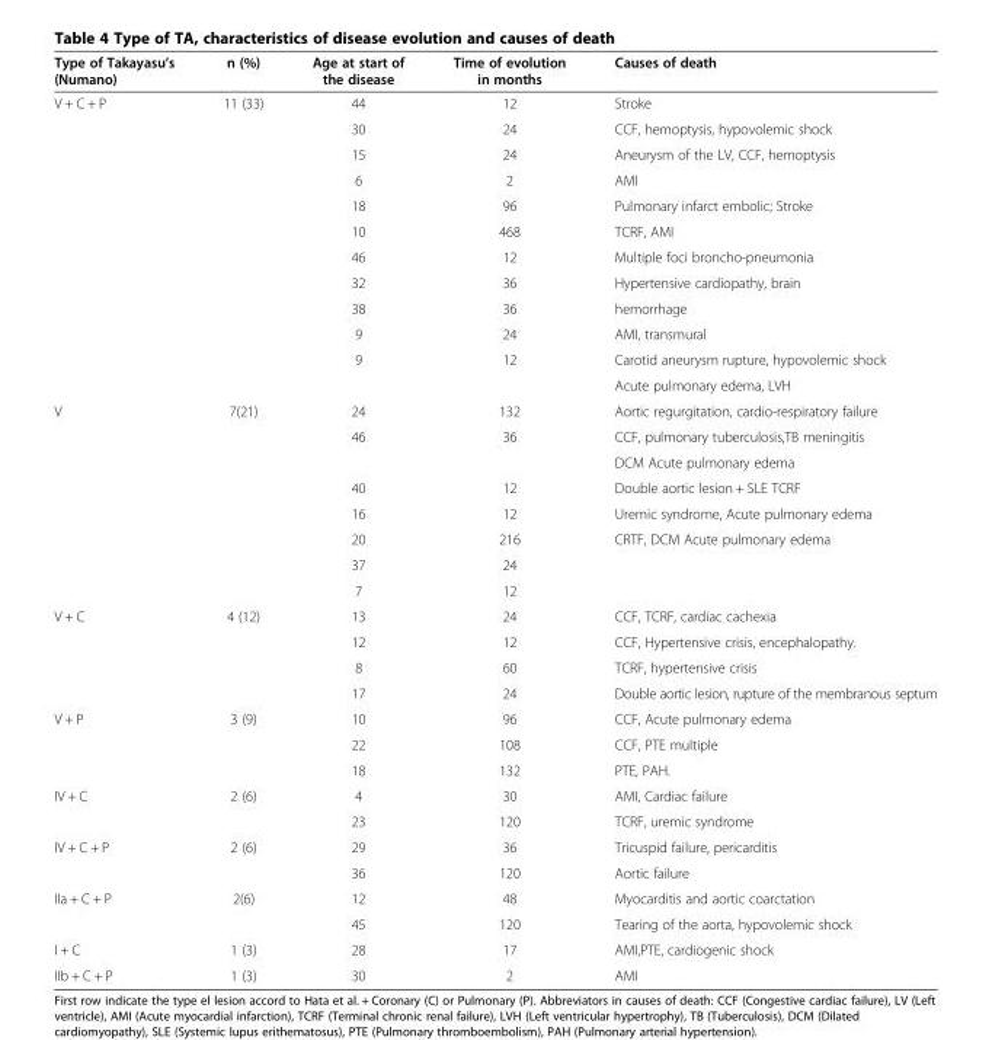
<table><thead><tr><td>Type of Takayasu’s (Numano)</td><td>n (%)</td><td>Age at start of the disease</td><td>Time of evolution in months</td><td>Causes of death</td></tr></thead><tbody><tr><td rowspan="12">V + C + P</td><td>11 (33)</td><td>44</td><td>12</td><td>Stroke</td></tr><tr><td></td><td>30</td><td>24</td><td>CCF, hemoptysis, hypovolemic shock</td></tr><tr><td></td><td>15</td><td>24</td><td>Aneurysm of the LV, CCF, hemoptysis</td></tr><tr><td></td><td>6</td><td>2</td><td>AMI</td></tr><tr><td></td><td>18</td><td>96</td><td>Pulmonary infarct embolic; Stroke</td></tr><tr><td></td><td>10</td><td>468</td><td>TCRF, AMI</td></tr><tr><td></td><td>46</td><td>12</td><td>Multiple foci broncho-pneumonia</td></tr><tr><td></td><td>32</td><td>36</td><td>Hypertensive cardiopathy, brain</td></tr><tr><td></td><td>38</td><td>36</td><td>hemorrhage</td></tr><tr><td></td><td>9</td><td>24</td><td>AMI, transmural</td></tr><tr><td></td><td>9</td><td>12</td><td>Carotid aneurysm rupture, hypovolemic shock</td></tr><tr><td></td><td></td><td></td><td>Acute pulmonary edema, LVH</td></tr><tr><td rowspan="8">V</td><td>7(21)</td><td>24</td><td>132</td><td>Aortic regurgitation, cardio-respiratory failure</td></tr><tr><td></td><td>46</td><td>36</td><td>CCF, pulmonary tuberculosis,TB meningitis</td></tr><tr><td></td><td></td><td></td><td>DCM Acute pulmonary edema</td></tr><tr><td></td><td>40</td><td>12</td><td>Double aortic lesion + SLE TCRF</td></tr><tr><td></td><td>16</td><td>12</td><td>Uremic syndrome, Acute pulmonary edema</td></tr><tr><td></td><td>20</td><td>216</td><td>CRTF, DCM Acute pulmonary edema</td></tr><tr><td></td><td>37</td><td>24</td><td></td></tr><tr><td></td><td>7</td><td>12</td><td></td></tr><tr><td rowspan="4">V + C</td><td>4 (12)</td><td>13</td><td>24</td><td>CCF, TCRF, cardiac cachexia</td></tr><tr><td></td><td>12</td><td>12</td><td>CCF, Hypertensive crisis, encephalopathy.</td></tr><tr><td></td><td>8</td><td>60</td><td>TCRF, hypertensive crisis</td></tr><tr><td></td><td>17</td><td>24</td><td>Double aortic lesion, rupture of the membranous septum</td></tr><tr><td rowspan="3">V + P</td><td>3 (9)</td><td>10</td><td>96</td><td>CCF, Acute pulmonary edema</td></tr><tr><td></td><td>22</td><td>108</td><td>CCF, PTE multiple</td></tr><tr><td></td><td>18</td><td>132</td><td>PTE, PAH.</td></tr><tr><td rowspan="2">IV + C</td><td>2 (6)</td><td>4</td><td>30</td><td>AMI, Cardiac failure</td></tr><tr><td></td><td>23</td><td>120</td><td>TCRF, uremic syndrome</td></tr><tr><td rowspan="2">IV + C + P</td><td>2 (6)</td><td>29</td><td>36</td><td>Tricuspid failure, pericarditis</td></tr><tr><td></td><td>36</td><td>120</td><td>Aortic failure</td></tr><tr><td rowspan="2">IIa + C + P</td><td>2(6)</td><td>12</td><td>48</td><td>Myocarditis and aortic coarctation</td></tr><tr><td></td><td>45</td><td>120</td><td>Tearing of the aorta, hypovolemic shock</td></tr><tr><td>I + C</td><td>1 (3)</td><td>28</td><td>17</td><td>AMI,PTE, cardiogenic shock</td></tr><tr><td>IIb + C + P</td><td>1 (3)</td><td>30</td><td>2</td><td>AMI</td></tr></tbody></table>